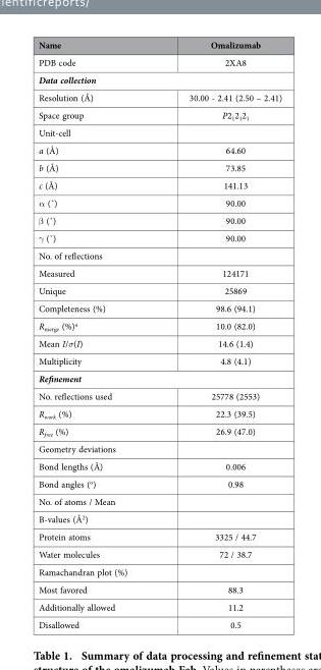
<table><thead><tr><td>Name</td><td>Omalizumab</td></tr></thead><tbody><tr><td>PDB code</td><td>2XA8</td></tr><tr><td colspan="2">Data collection</td></tr><tr><td>Resolution (Å)</td><td>30.00 - 2.41 (2.50 – 2.41)</td></tr><tr><td>Space group</td><td>P2<sub>1</sub>2<sub>1</sub>2<sub>1</sub></td></tr><tr><td colspan="2">Unit-cell</td></tr><tr><td>a (Å)</td><td>64.60</td></tr><tr><td>b (Å)</td><td>73.85</td></tr><tr><td>c (Å)</td><td>141.13</td></tr><tr><td>α (˚)</td><td>90.00</td></tr><tr><td>β (˚)</td><td>90.00</td></tr><tr><td>γ (˚)</td><td>90.00</td></tr><tr><td colspan="2">No. of reflections</td></tr><tr><td>Measured</td><td>124171</td></tr><tr><td>Unique</td><td>25869</td></tr><tr><td>Completeness (%)</td><td>98.6 (94.1)</td></tr><tr><td>R<sub>merge</sub> (%)<sup>a</sup></td><td>10.0 (82.0)</td></tr><tr><td>Mean I/σ(I)</td><td>14.6 (1.4)</td></tr><tr><td>Multiplicity</td><td>4.8 (4.1)</td></tr><tr><td colspan="2">Refinement</td></tr><tr><td>No. reflections used</td><td>25778 (2553)</td></tr><tr><td>R<sub>work</sub> (%)</td><td>22.3 (39.5)</td></tr><tr><td>R<sub>free</sub> (%)</td><td>26.9 (47.0)</td></tr><tr><td colspan="2">Geometry deviations</td></tr><tr><td>Bond lengths (Å)</td><td>0.006</td></tr><tr><td>Bond angles (°)</td><td>0.98</td></tr><tr><td colspan="2">No. of atoms / Mean</td></tr><tr><td colspan="2">B-values (Å<sup>2</sup>)</td></tr><tr><td>Protein atoms</td><td>3325 / 44.7</td></tr><tr><td>Water molecules</td><td>72 / 38.7</td></tr><tr><td colspan="2">Ramachandran plot (%)</td></tr><tr><td>Most favored</td><td>88.3</td></tr><tr><td>Additionally allowed</td><td>11.2</td></tr><tr><td>Disallowed</td><td>0.5</td></tr></tbody></table>